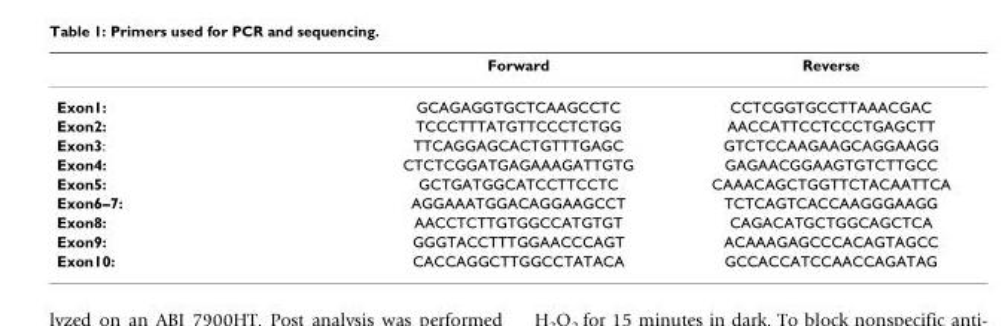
<table><thead><tr><td></td><td>Forward</td><td>Reverse</td></tr></thead><tbody><tr><td>Exon1:</td><td>GCAGAGGTGCTCAAGCCTC</td><td>CCTCGGTGCCTTAAACGAC</td></tr><tr><td>Exon2:</td><td>TCCCTTTATGTTCCCTCTGG</td><td>AACCATTCCTCCCTGAGCTT</td></tr><tr><td>Exon3:</td><td>TTCAGGAGCACTGTTTGAGC</td><td>GTCTCCAAGAAGCAGGAAGG</td></tr><tr><td>Exon4:</td><td>CTCTCGGATGAGAAAGATTGTG</td><td>GAGAACGGAAGTGTCTTGCC</td></tr><tr><td>Exon5:</td><td>GCTGATGGCATCCTTCCTC</td><td>CAAACAGCTGGTTCTACAATTCA</td></tr><tr><td>Exon6–7:</td><td>AGGAAATGGACAGGAAGCCT</td><td>TCTCAGTCACCAAGGGAAGG</td></tr><tr><td>Exon8:</td><td>AACCTCTTGTGGCCATGTGT</td><td>CAGACATGCTGGCAGCTCA</td></tr><tr><td>Exon9:</td><td>GGGTACCTTTGGAACCCAGT</td><td>ACAAAGAGCCCACAGTAGCC</td></tr><tr><td>Exon10:</td><td>CACCAGGCTTGGCCTATACA</td><td>GCCACCATCCAACCAGATAG</td></tr></tbody></table>